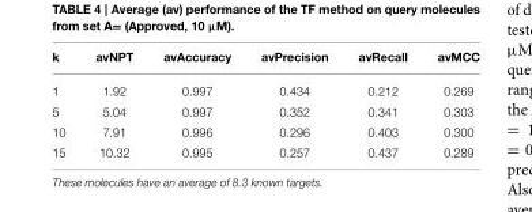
<table><thead><tr><td>k</td><td>avNPT</td><td>avAccuracy</td><td>avPrecision</td><td>avRecall</td><td>avMCC</td></tr></thead><tbody><tr><td>1</td><td>1.92</td><td>0.997</td><td>0.434</td><td>0.212</td><td>0.269</td></tr><tr><td>5</td><td>5.04</td><td>0.997</td><td>0.352</td><td>0.341</td><td>0.303</td></tr><tr><td>10</td><td>7.91</td><td>0.996</td><td>0.296</td><td>0.403</td><td>0.300</td></tr><tr><td>15</td><td>10.32</td><td>0.995</td><td>0.257</td><td>0.437</td><td>0.289</td></tr></tbody></table>